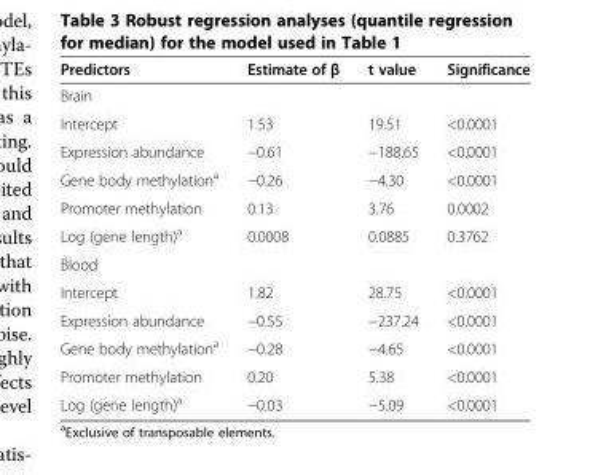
<table><thead><tr><td>Predictors</td><td>Estimate of β</td><td>t value</td><td>Significance</td></tr></thead><tbody><tr><td colspan="4">Brain</td></tr><tr><td>Intercept</td><td>1.53</td><td>19.51</td><td>&lt;0.0001</td></tr><tr><td>Expression abundance</td><td>−0.61</td><td>−188.65</td><td>&lt;0.0001</td></tr><tr><td>Gene body methylation<sup>a</sup></td><td>−0.26</td><td>−4.30</td><td>&lt;0.0001</td></tr><tr><td>Promoter methylation</td><td>0.13</td><td>3.76</td><td>0.0002</td></tr><tr><td>Log (gene length)<sup>a</sup></td><td>0.0008</td><td>0.0885</td><td>0.3762</td></tr><tr><td colspan="4">Blood</td></tr><tr><td>Intercept</td><td>1.82</td><td>28.75</td><td>&lt;0.0001</td></tr><tr><td>Expression abundance</td><td>−0.55</td><td>−237.24</td><td>&lt;0.0001</td></tr><tr><td>Gene body methylation<sup>a</sup></td><td>−0.28</td><td>−4.65</td><td>&lt;0.0001</td></tr><tr><td>Promoter methylation</td><td>0.20</td><td>5.38</td><td>&lt;0.0001</td></tr><tr><td>Log (gene length)<sup>a</sup></td><td>−0.03</td><td>−5.09</td><td>&lt;0.0001</td></tr></tbody></table>